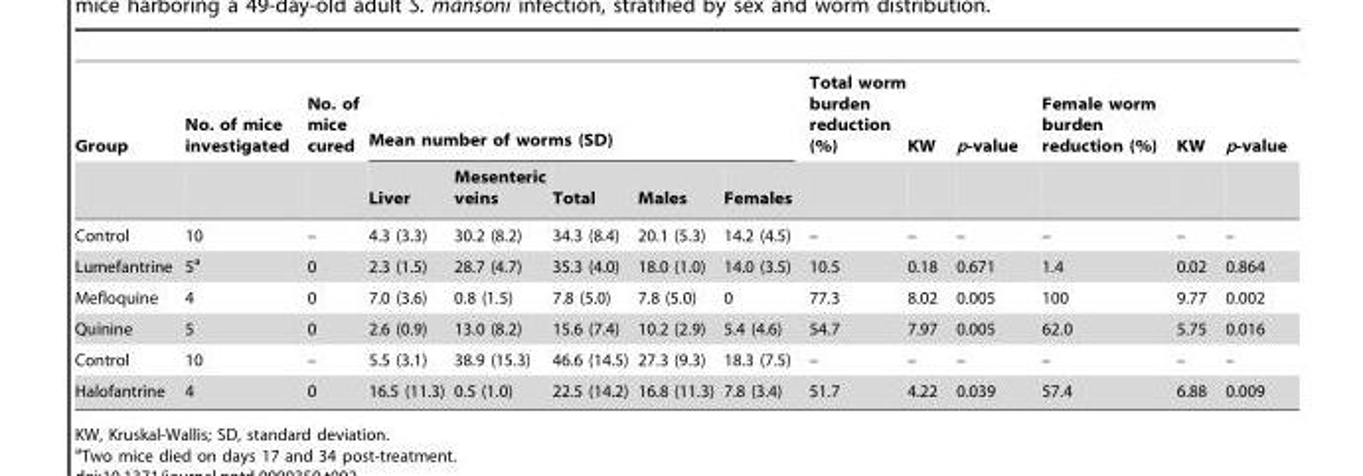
<table><thead><tr><td rowspan="2">Group</td><td rowspan="2">No. of mice investigated</td><td rowspan="2">No. of mice cured</td><td colspan="5">Mean number of worms (SD)</td><td rowspan="2">Total worm burden reduction (%)</td><td rowspan="2">KW</td><td rowspan="2">p-value</td><td rowspan="2">Female worm burden reduction (%)</td><td rowspan="2">KW</td><td rowspan="2">p-value</td></tr><tr><td>Liver</td><td>Mesenteric veins</td><td>Total</td><td>Males</td><td>Females</td></tr></thead><tbody><tr><td>Control</td><td>10</td><td>–</td><td>4.3 (3.3)</td><td>30.2 (8.2)</td><td>34.3 (8.4)</td><td>20.1 (5.3)</td><td>14.2 (4.5)</td><td>–</td><td>–</td><td>–</td><td>–</td><td>–</td><td>–</td></tr><tr><td>Lumefantrine</td><td>5<sup>a</sup></td><td>0</td><td>2.3 (1.5)</td><td>28.7 (4.7)</td><td>35.3 (4.0)</td><td>18.0 (1.0)</td><td>14.0 (3.5)</td><td>10.5</td><td>0.18</td><td>0.671</td><td>1.4</td><td>0.02</td><td>0.864</td></tr><tr><td>Mefloquine</td><td>4</td><td>0</td><td>7.0 (3.6)</td><td>0.8 (1.5)</td><td>7.8 (5.0)</td><td>7.8 (5.0)</td><td>0</td><td>77.3</td><td>8.02</td><td>0.005</td><td>100</td><td>9.77</td><td>0.002</td></tr><tr><td>Quinine</td><td>5</td><td>0</td><td>2.6 (0.9)</td><td>13.0 (8.2)</td><td>15.6 (7.4)</td><td>10.2 (2.9)</td><td>5.4 (4.6)</td><td>54.7</td><td>7.97</td><td>0.005</td><td>62.0</td><td>5.75</td><td>0.016</td></tr><tr><td>Control</td><td>10</td><td>–</td><td>5.5 (3.1)</td><td>38.9 (15.3)</td><td>46.6 (14.5)</td><td>27.3 (9.3)</td><td>18.3 (7.5)</td><td>–</td><td>–</td><td>–</td><td>–</td><td>–</td><td>–</td></tr><tr><td>Halofantrine</td><td>4</td><td>0</td><td>16.5 (11.3)</td><td>0.5 (1.0)</td><td>22.5 (14.2)</td><td>16.8 (11.3)</td><td>7.8 (3.4)</td><td>51.7</td><td>4.22</td><td>0.039</td><td>57.4</td><td>6.88</td><td>0.009</td></tr></tbody></table>